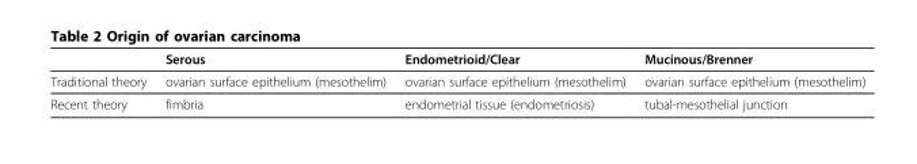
<table><thead><tr><td></td><td>Serous</td><td>Endometrioid/Clear</td><td>Mucinous/Brenner</td></tr></thead><tbody><tr><td>Traditional theory</td><td>ovarian surface epithelium (mesothelim)</td><td>ovarian surface epithelium (mesothelim)</td><td>ovarian surface epithelium (mesothelim)</td></tr><tr><td>Recent theory</td><td>fimbria</td><td>endometrial tissue (endometriosis)</td><td>tubal-mesothelial junction</td></tr></tbody></table>